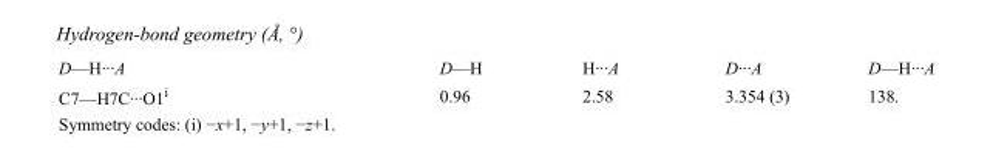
<table><tbody><tr><td>D—H···A</td><td>D—H</td><td>H···A</td><td>D···A</td><td>D—H···A</td></tr><tr><td>C7—H7C···O1<sup>i</sup></td><td>0.96</td><td>2.58</td><td>3.354 (3)</td><td>138.</td></tr></tbody></table>